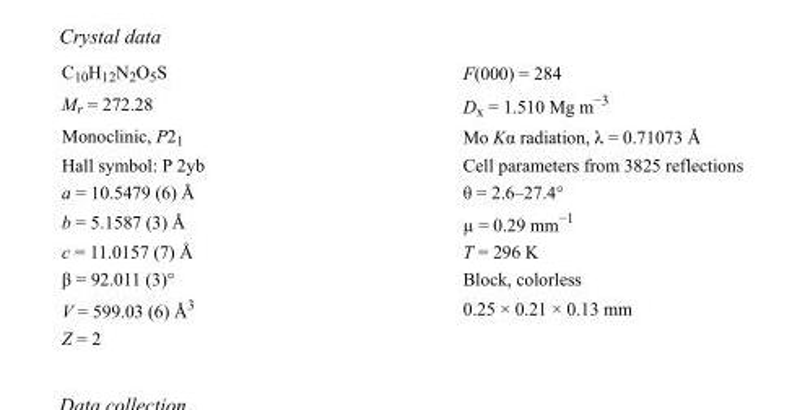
<table><tbody><tr><td>C<sub>10</sub>H<sub>12</sub>N<sub>2</sub>O<sub>5</sub>S</td><td>F(000) = 284</td></tr><tr><td>M<sub>r</sub> = 272.28</td><td>D<sub>x</sub> = 1.510 Mg m<sup>−3</sup></td></tr><tr><td>Monoclinic, P2<sub>1</sub></td><td>Mo Kα radiation, λ = 0.71073 Å</td></tr><tr><td>Hall symbol: P 2yb</td><td>Cell parameters from 3825 reflections</td></tr><tr><td>a = 10.5479 (6) Å</td><td>θ = 2.6–27.4°</td></tr><tr><td>b = 5.1587 (3) Å</td><td>µ = 0.29 mm<sup>−1</sup></td></tr><tr><td>c = 11.0157 (7) Å</td><td>T = 296 K</td></tr><tr><td>β = 92.011 (3)°</td><td>Block, colorless</td></tr><tr><td>V = 599.03 (6) Å<sup>3</sup></td><td>0.25 × 0.21 × 0.13 mm</td></tr><tr><td>Z = 2</td><td></td></tr></tbody></table>